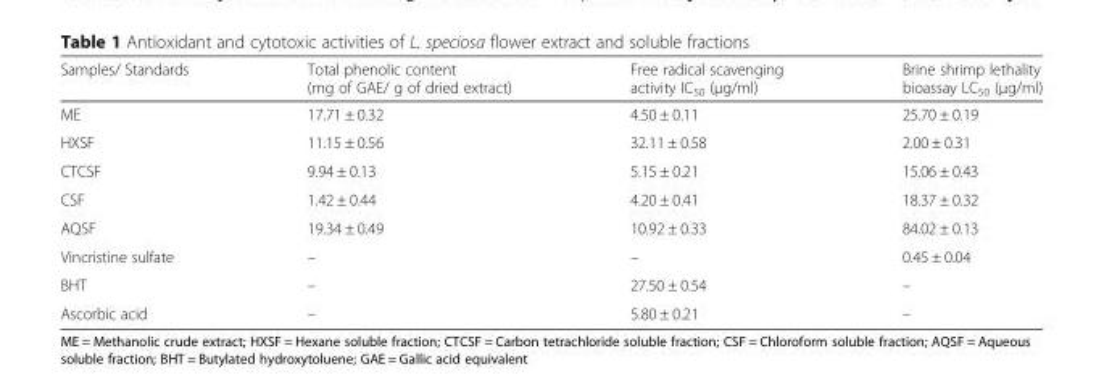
<table><thead><tr><td>Samples/ Standards</td><td>Total phenolic content (mg of GAE/ g of dried extract)</td><td>Free radical scavenging activity IC<sub>50</sub> (μg/ml)</td><td>Brine shrimp lethality bioassay LC<sub>50</sub> (μg/ml)</td></tr></thead><tbody><tr><td>ME</td><td>17.71 ± 0.32</td><td>4.50 ± 0.11</td><td>25.70 ± 0.19</td></tr><tr><td>HXSF</td><td>11.15 ± 0.56</td><td>32.11 ± 0.58</td><td>2.00 ± 0.31</td></tr><tr><td>CTCSF</td><td>9.94 ± 0.13</td><td>5.15 ± 0.21</td><td>15.06 ± 0.43</td></tr><tr><td>CSF</td><td>1.42 ± 0.44</td><td>4.20 ± 0.41</td><td>18.37 ± 0.32</td></tr><tr><td>AQSF</td><td>19.34 ± 0.49</td><td>10.92 ± 0.33</td><td>84.02 ± 0.13</td></tr><tr><td>Vincristine sulfate</td><td>–</td><td>–</td><td>0.45 ± 0.04</td></tr><tr><td>BHT</td><td>–</td><td>27.50 ± 0.54</td><td>–</td></tr><tr><td>Ascorbic acid</td><td>–</td><td>5.80 ± 0.21</td><td>–</td></tr></tbody></table>